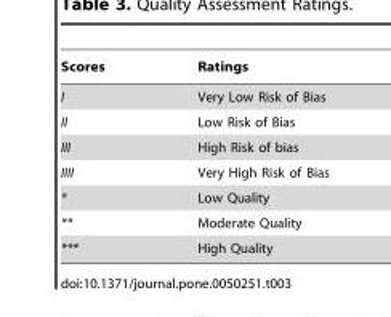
<table><thead><tr><td>Scores</td><td>Ratings</td></tr></thead><tbody><tr><td>I</td><td>Very Low Risk of Bias</td></tr><tr><td>II</td><td>Low Risk of Bias</td></tr><tr><td>III</td><td>High Risk of bias</td></tr><tr><td>IIII</td><td>Very High Risk of Bias</td></tr><tr><td>*</td><td>Low Quality</td></tr><tr><td>**</td><td>Moderate Quality</td></tr><tr><td>***</td><td>High Quality</td></tr></tbody></table>